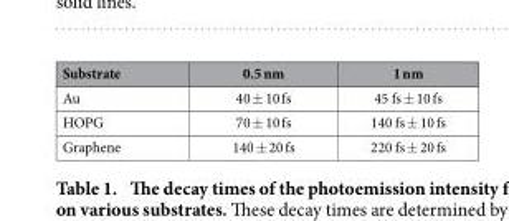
<table><thead><tr><td>Substrate</td><td>0.5 nm</td><td>1 nm</td></tr></thead><tbody><tr><td>Au</td><td>40 ± 10 fs</td><td>45 fs ± 10 fs</td></tr><tr><td>HOPG</td><td>70 ± 10 fs</td><td>140 fs ± 10 fs</td></tr><tr><td>Graphene</td><td>140 ± 20 fs</td><td>220 fs ± 20 fs</td></tr></tbody></table>